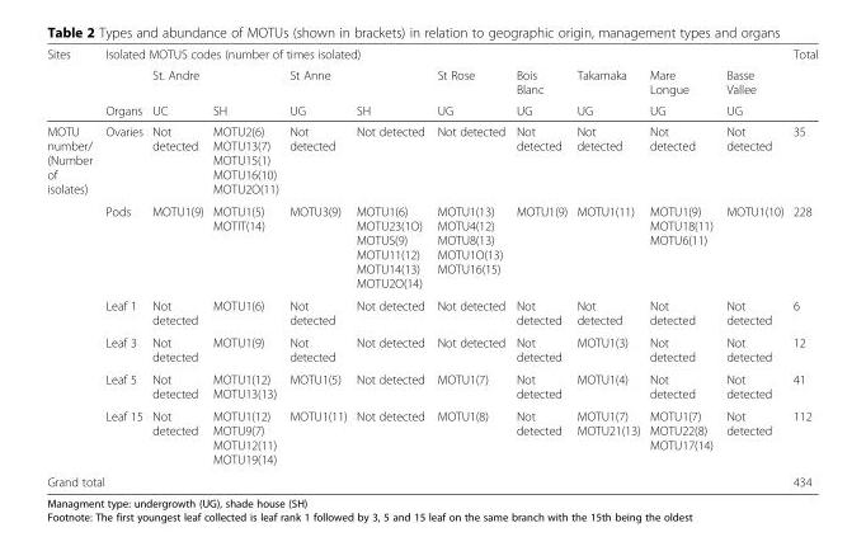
<table><thead><tr><td rowspan="3">Sites</td><td colspan="10">Isolated MOTUS codes (number of times isolated)</td><td rowspan="3">Total</td></tr><tr><td rowspan="2">Organs</td><td rowspan="2">St. Andre UC</td><td rowspan="2">SH</td><td colspan="2">St Anne</td><td rowspan="2">St Rose UG</td><td rowspan="2">Bois Blanc UG</td><td rowspan="2">Takamaka UG</td><td rowspan="2">Mare Longue UG</td><td rowspan="2">Basse Vallee UG</td></tr><tr><td>UG</td><td>SH</td></tr></thead><tbody><tr><td rowspan="6">MOTU number/ (Number of isolates)</td><td>Ovaries</td><td>Not detected</td><td>MOTU2(6) MOTU13(7) MOTU15(1) MOTU16(10) MOTU2O(11)</td><td>Not detected</td><td>Not detected</td><td>Not detected</td><td>Not detected</td><td>Not detected</td><td>Not detected</td><td>Not detected</td><td>35</td></tr><tr><td>Pods</td><td>MOTU1(9)</td><td>MOTU1(5) MOTIT(14)</td><td>MOTU3(9)</td><td>MOTU1(6) MOTU23(1O) MOTUS(9) MOTU11(12) MOTU14(13) MOTU2O(14)</td><td>MOTU1(13) MOTU4(12) MOTU8(13) MOTU1O(13) MOTU16(15)</td><td>MOTU1(9)</td><td>MOTU1(11)</td><td>MOTU1(9) MOTU18(11) MOTU6(11)</td><td>MOTU1(10)</td><td>228</td></tr><tr><td>Leaf 1</td><td>Not detected</td><td>MOTU1(6)</td><td>Not detected</td><td>Not detected</td><td>Not detected</td><td>Not detected</td><td>Not detected</td><td>Not detected</td><td>Not detected</td><td>6</td></tr><tr><td>Leaf 3</td><td>Not detected</td><td>MOTU1(9)</td><td>Not detected</td><td>Not detected</td><td>Not detected</td><td>Not detected</td><td>MOTU1(3)</td><td>Not detected</td><td>Not detected</td><td>12</td></tr><tr><td>Leaf 5</td><td>Not detected</td><td>MOTU1(12) MOTU13(13)</td><td>MOTU1(5)</td><td>Not detected</td><td>MOTU1(7)</td><td>Not detected</td><td>MOTU1(4)</td><td>Not detected</td><td>Not detected</td><td>41</td></tr><tr><td>Leaf 15</td><td>Not detected</td><td>MOTU1(12) MOTU9(7) MOTU12(11) MOTU19(14)</td><td>MOTU1(11)</td><td>Not detected</td><td>MOTU1(8)</td><td>Not detected</td><td>MOTU1(7) MOTU21(13)</td><td>MOTU1(7) MOTU22(8) MOTU17(14)</td><td>Not detected</td><td>112</td></tr><tr><td colspan="11">Grand total</td><td>434</td></tr></tbody></table>